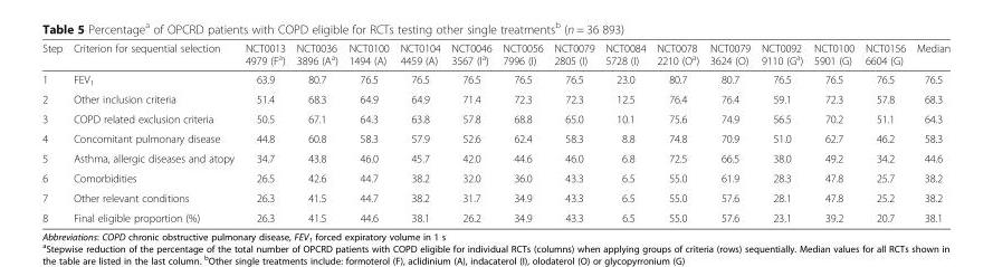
<table><thead><tr><td>Step</td><td>Criterion for sequential selection</td><td>NCT0013 4979 (F<sup>a</sup>)</td><td>NCT0036 3896 (A<sup>a</sup>)</td><td>NCT0100 1494 (A)</td><td>NCT0104 4459 (A)</td><td>NCT0046 3567 (I<sup>a</sup>)</td><td>NCT0056 7996 (I)</td><td>NCT0079 2805 (I)</td><td>NCT0084 5728 (I)</td><td>NCT0078 2210 (O<sup>a</sup>)</td><td>NCT0079 3624 (O)</td><td>NCT0092 9110 (G<sup>a</sup>)</td><td>NCT0100 5901 (G)</td><td>NCT0156 6604 (G)</td><td>Median</td></tr></thead><tbody><tr><td>1</td><td>FEV<sub>1</sub></td><td>63.9</td><td>80.7</td><td>76.5</td><td>76.5</td><td>76.5</td><td>76.5</td><td>76.5</td><td>23.0</td><td>80.7</td><td>80.7</td><td>76.5</td><td>76.5</td><td>76.5</td><td>76.5</td></tr><tr><td>2</td><td>Other inclusion criteria</td><td>51.4</td><td>68.3</td><td>64.9</td><td>64.9</td><td>71.4</td><td>72.3</td><td>72.3</td><td>12.5</td><td>76.4</td><td>76.4</td><td>59.1</td><td>72.3</td><td>57.8</td><td>68.3</td></tr><tr><td>3</td><td>COPD related exclusion criteria</td><td>50.5</td><td>67.1</td><td>64.3</td><td>63.8</td><td>57.8</td><td>68.8</td><td>65.0</td><td>10.1</td><td>75.6</td><td>74.9</td><td>56.5</td><td>70.2</td><td>51.1</td><td>64.3</td></tr><tr><td>4</td><td>Concomitant pulmonary disease</td><td>44.8</td><td>60.8</td><td>58.3</td><td>57.9</td><td>52.6</td><td>62.4</td><td>58.3</td><td>8.8</td><td>74.8</td><td>70.9</td><td>51.0</td><td>62.7</td><td>46.2</td><td>58.3</td></tr><tr><td>5</td><td>Asthma, allergic diseases and atopy</td><td>34.7</td><td>43.8</td><td>46.0</td><td>45.7</td><td>42.0</td><td>44.6</td><td>46.0</td><td>6.8</td><td>72.5</td><td>66.5</td><td>38.0</td><td>49.2</td><td>34.2</td><td>44.6</td></tr><tr><td>6</td><td>Comorbidities</td><td>26.5</td><td>42.6</td><td>44.7</td><td>38.2</td><td>32.0</td><td>36.0</td><td>43.3</td><td>6.5</td><td>55.0</td><td>61.9</td><td>28.3</td><td>47.8</td><td>25.7</td><td>38.2</td></tr><tr><td>7</td><td>Other relevant conditions</td><td>26.3</td><td>41.5</td><td>44.7</td><td>38.2</td><td>31.7</td><td>34.9</td><td>43.3</td><td>6.5</td><td>55.0</td><td>57.6</td><td>28.1</td><td>47.8</td><td>25.2</td><td>38.2</td></tr><tr><td>8</td><td>Final eligible proportion (%)</td><td>26.3</td><td>41.5</td><td>44.6</td><td>38.1</td><td>26.2</td><td>34.9</td><td>43.3</td><td>6.5</td><td>55.0</td><td>57.6</td><td>23.1</td><td>39.2</td><td>20.7</td><td>38.1</td></tr></tbody></table>